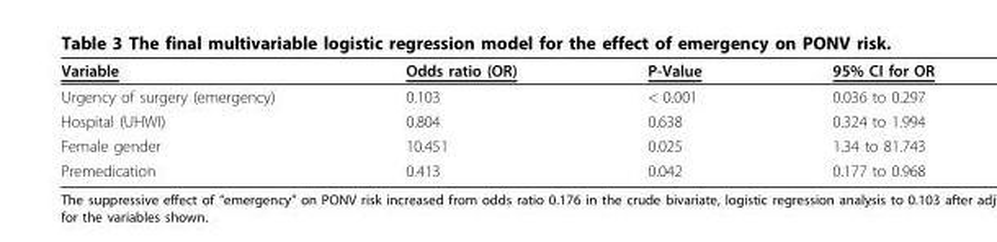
<table><thead><tr><td>Variable</td><td>Odds ratio (OR)</td><td>P-Value</td><td>95% CI for OR</td></tr></thead><tbody><tr><td>Urgency of surgery (emergency)</td><td>0.103</td><td>&lt; 0.001</td><td>0.036 to 0.297</td></tr><tr><td>Hospital (UHWI)</td><td>0.804</td><td>0.638</td><td>0.324 to 1.994</td></tr><tr><td>Female gender</td><td>10.451</td><td>0.025</td><td>1.34 to 81.743</td></tr><tr><td>Premedication</td><td>0.413</td><td>0.042</td><td>0.177 to 0.968</td></tr></tbody></table>